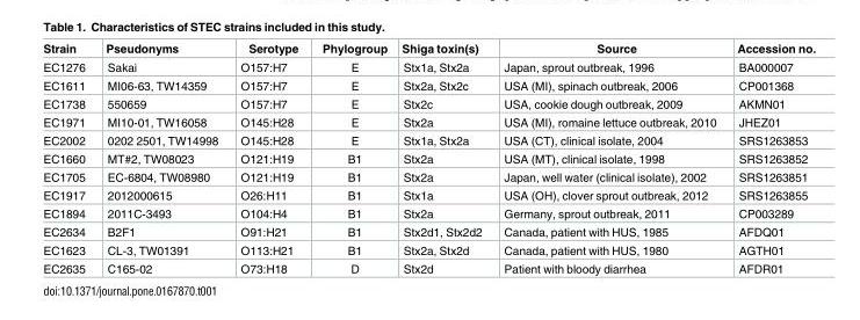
<table><thead><tr><td>Strain</td><td>Pseudonyms</td><td>Serotype</td><td>Phylogroup</td><td>Shiga toxin(s)</td><td>Source</td><td>Accession no.</td></tr></thead><tbody><tr><td>EC1276</td><td>Sakai</td><td>O157:H7</td><td>E</td><td>Stx1a, Stx2a</td><td>Japan, sprout outbreak, 1996</td><td>BA000007</td></tr><tr><td>EC1611</td><td>MI06-63, TW14359</td><td>O157:H7</td><td>E</td><td>Stx2a, Stx2c</td><td>USA (MI), spinach outbreak, 2006</td><td>CP001368</td></tr><tr><td>EC1738</td><td>550659</td><td>O157:H7</td><td>E</td><td>Stx2c</td><td>USA, cookie dough outbreak, 2009</td><td>AKMN01</td></tr><tr><td>EC1971</td><td>MI10-01, TW16058</td><td>O145:H28</td><td>E</td><td>Stx2a</td><td>USA (MI), romaine lettuce outbreak, 2010</td><td>JHEZ01</td></tr><tr><td>EC2002</td><td>0202 2501, TW14998</td><td>O145:H28</td><td>E</td><td>Stx1a, Stx2a</td><td>USA (CT), clinical isolate, 2004</td><td>SRS1263853</td></tr><tr><td>EC1660</td><td>MT#2, TW08023</td><td>O121:H19</td><td>B1</td><td>Stx2a</td><td>USA (MT), clinical isolate, 1998</td><td>SRS1263852</td></tr><tr><td>EC1705</td><td>EC-6804, TW08980</td><td>O121:H19</td><td>B1</td><td>Stx2a</td><td>Japan, well water (clinical isolate), 2002</td><td>SRS1263851</td></tr><tr><td>EC1917</td><td>2012000615</td><td>O26:H11</td><td>B1</td><td>Stx1a</td><td>USA (OH), clover sprout outbreak, 2012</td><td>SRS1263855</td></tr><tr><td>EC1894</td><td>2011C-3493</td><td>O104:H4</td><td>B1</td><td>Stx2a</td><td>Germany, sprout outbreak, 2011</td><td>CP003289</td></tr><tr><td>EC2634</td><td>B2F1</td><td>O91:H21</td><td>B1</td><td>Stx2d1, Stx2d2</td><td>Canada, patient with HUS, 1985</td><td>AFDQ01</td></tr><tr><td>EC1623</td><td>CL-3, TW01391</td><td>O113:H21</td><td>B1</td><td>Stx2a, Stx2d</td><td>Canada, patient with HUS, 1980</td><td>AGTH01</td></tr><tr><td>EC2635</td><td>C165-02</td><td>O73:H18</td><td>D</td><td>Stx2d</td><td>Patient with bloody diarrhea</td><td>AFDR01</td></tr></tbody></table>